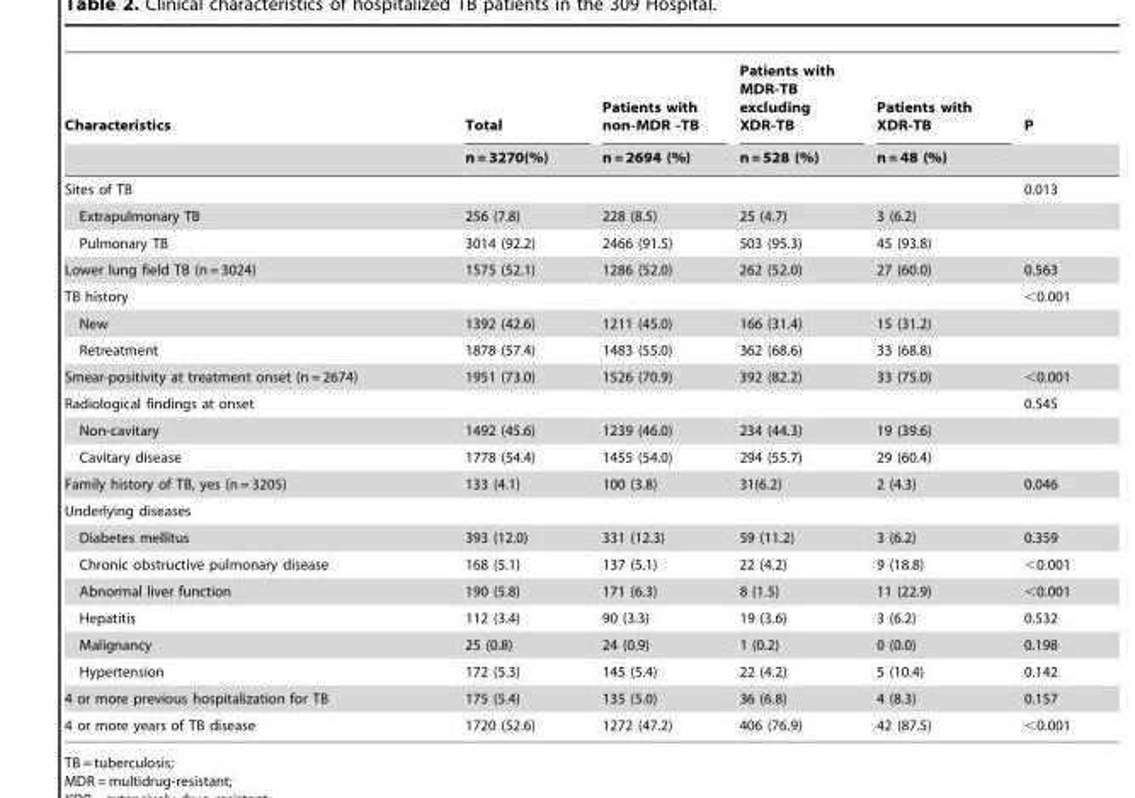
<table><thead><tr><td rowspan="2">Characteristics</td><td rowspan="2">Total n = 3270(%)</td><td rowspan="2">Patients with non-MDR -TB n = 2694 (%)</td><td rowspan="2">Patients with MDR-TB excluding XDR-TB n = 528 (%)</td><td rowspan="2">Patients with XDR-TB n = 48 (%)</td><td rowspan="2">P</td></tr><tr></tr></thead><tbody><tr><td>Sites of TB</td><td></td><td></td><td></td><td></td><td>0.013</td></tr><tr><td>Extrapulmonary TB</td><td>256 (7.8)</td><td>228 (8.5)</td><td>25 (4.7)</td><td>3 (6.2)</td><td></td></tr><tr><td>Pulmonary TB</td><td>3014 (92.2)</td><td>2466 (91.5)</td><td>503 (95.3)</td><td>45 (93.8)</td><td></td></tr><tr><td>Lower lung field TB (n = 3024)</td><td>1575 (52.1)</td><td>1286 (52.0)</td><td>262 (52.0)</td><td>27 (60.0)</td><td>0.563</td></tr><tr><td>TB history</td><td></td><td></td><td></td><td></td><td>&lt;0.001</td></tr><tr><td>New</td><td>1392 (42.6)</td><td>1211 (45.0)</td><td>166 (31.4)</td><td>15 (31.2)</td><td></td></tr><tr><td>Retreatment</td><td>1878 (57.4)</td><td>1483 (55.0)</td><td>362 (68.6)</td><td>33 (68.8)</td><td></td></tr><tr><td>Smear-positivity at treatment onset (n = 2674)</td><td>1951 (73.0)</td><td>1526 (70.9)</td><td>392 (82.2)</td><td>33 (75.0)</td><td>&lt;0.001</td></tr><tr><td>Radiological findings at onset</td><td></td><td></td><td></td><td></td><td>0.545</td></tr><tr><td>Non-cavitary</td><td>1492 (45.6)</td><td>1239 (46.0)</td><td>234 (44.3)</td><td>19 (39.6)</td><td></td></tr><tr><td>Cavitary disease</td><td>1778 (54.4)</td><td>1455 (54.0)</td><td>294 (55.7)</td><td>29 (60.4)</td><td></td></tr><tr><td>Family history of TB, yes (n = 3205)</td><td>133 (4.1)</td><td>100 (3.8)</td><td>31(6.2)</td><td>2 (4.3)</td><td>0.046</td></tr><tr><td colspan="6">Underlying diseases</td></tr><tr><td>Diabetes mellitus</td><td>393 (12.0)</td><td>331 (12.3)</td><td>59 (11.2)</td><td>3 (6.2)</td><td>0.359</td></tr><tr><td>Chronic obstructive pulmonary disease</td><td>168 (5.1)</td><td>137 (5.1)</td><td>22 (4.2)</td><td>9 (18.8)</td><td>&lt;0.001</td></tr><tr><td>Abnormal liver function</td><td>190 (5.8)</td><td>171 (6.3)</td><td>8 (1.5)</td><td>11 (22.9)</td><td>&lt;0.001</td></tr><tr><td>Hepatitis</td><td>112 (3.4)</td><td>90 (3.3)</td><td>19 (3.6)</td><td>3 (6.2)</td><td>0.532</td></tr><tr><td>Malignancy</td><td>25 (0.8)</td><td>24 (0.9)</td><td>1 (0.2)</td><td>0 (0.0)</td><td>0.198</td></tr><tr><td>Hypertension</td><td>172 (5.3)</td><td>145 (5.4)</td><td>22 (4.2)</td><td>5 (10.4)</td><td>0.142</td></tr><tr><td>4 or more previous hospitalization for TB</td><td>175 (5.4)</td><td>135 (5.0)</td><td>36 (6.8)</td><td>4 (8.3)</td><td>0.157</td></tr><tr><td>4 or more years of TB disease</td><td>1720 (52.6)</td><td>1272 (47.2)</td><td>406 (76.9)</td><td>42 (87.5)</td><td>&lt;0.001</td></tr></tbody></table>